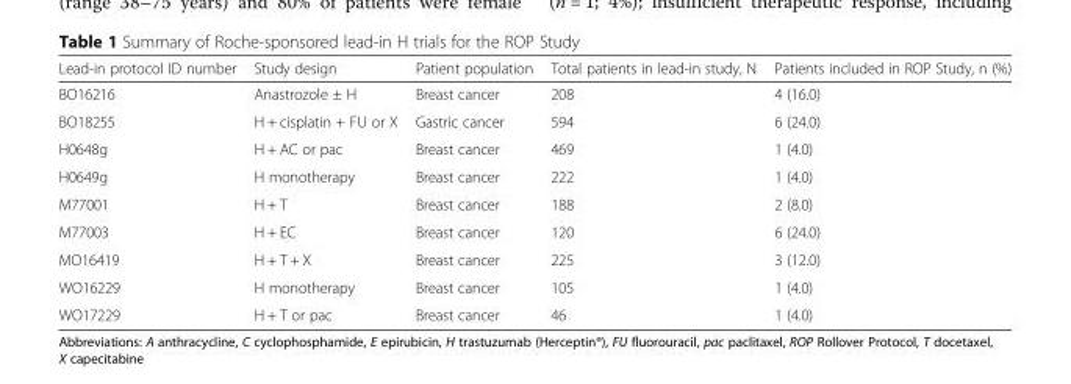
<table><thead><tr><td>Lead-in protocol ID number</td><td>Study design</td><td>Patient population</td><td>Total patients in lead-in study, N</td><td>Patients included in ROP Study, n (%)</td></tr></thead><tbody><tr><td>BO16216</td><td>Anastrozole ± H</td><td>Breast cancer</td><td>208</td><td>4 (16.0)</td></tr><tr><td>BO18255</td><td>H + cisplatin + FU or X</td><td>Gastric cancer</td><td>594</td><td>6 (24.0)</td></tr><tr><td>H0648g</td><td>H + AC or pac</td><td>Breast cancer</td><td>469</td><td>1 (4.0)</td></tr><tr><td>H0649g</td><td>H monotherapy</td><td>Breast cancer</td><td>222</td><td>1 (4.0)</td></tr><tr><td>M77001</td><td>H + T</td><td>Breast cancer</td><td>188</td><td>2 (8.0)</td></tr><tr><td>M77003</td><td>H + EC</td><td>Breast cancer</td><td>120</td><td>6 (24.0)</td></tr><tr><td>MO16419</td><td>H + T + X</td><td>Breast cancer</td><td>225</td><td>3 (12.0)</td></tr><tr><td>WO16229</td><td>H monotherapy</td><td>Breast cancer</td><td>105</td><td>1 (4.0)</td></tr><tr><td>WO17229</td><td>H + T or pac</td><td>Breast cancer</td><td>46</td><td>1 (4.0)</td></tr></tbody></table>